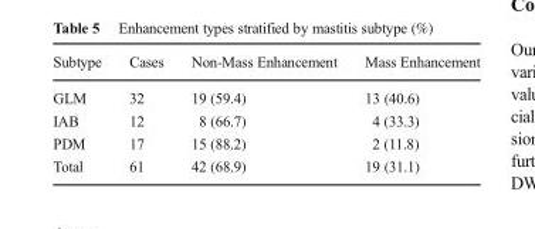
<table><thead><tr><td>Subtype</td><td>Cases</td><td>Non-Mass Enhancement</td><td>Mass Enhancement</td></tr></thead><tbody><tr><td>GLM</td><td>32</td><td>19 (59.4)</td><td>13 (40.6)</td></tr><tr><td>IAB</td><td>12</td><td>8 (66.7)</td><td>4 (33.3)</td></tr><tr><td>PDM</td><td>17</td><td>15 (88.2)</td><td>2 (11.8)</td></tr><tr><td>Total</td><td>61</td><td>42 (68.9)</td><td>19 (31.1)</td></tr></tbody></table>